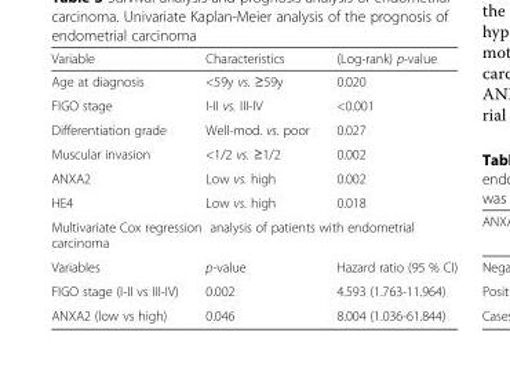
<table><thead><tr><td>Variable</td><td>Characteristics</td><td>(Log-rank) p-value</td></tr></thead><tbody><tr><td>Age at diagnosis</td><td>&lt;59y vs. ≥59y</td><td>0.020</td></tr><tr><td>FIGO stage</td><td>I-II vs. III-IV</td><td>&lt;0.001</td></tr><tr><td>Differentiation grade</td><td>Well-mod. vs. poor</td><td>0.027</td></tr><tr><td>Muscular invasion</td><td>&lt;1/2 vs. ≥1/2</td><td>0.002</td></tr><tr><td>ANXA2</td><td>Low vs. high</td><td>0.002</td></tr><tr><td>HE4</td><td>Low vs. high</td><td>0.018</td></tr><tr><td colspan="3">Multivariate Cox regression analysis of patients with endometrial carcinoma</td></tr><tr><td>Variables</td><td>p-value</td><td>Hazard ratio (95 % CI)</td></tr><tr><td>FIGO stage (I-II vs III-IV)</td><td>0.002</td><td>4.593 (1.763-11.964)</td></tr><tr><td>ANXA2 (low vs high)</td><td>0.046</td><td>8.004 (1.036-61.844)</td></tr></tbody></table>